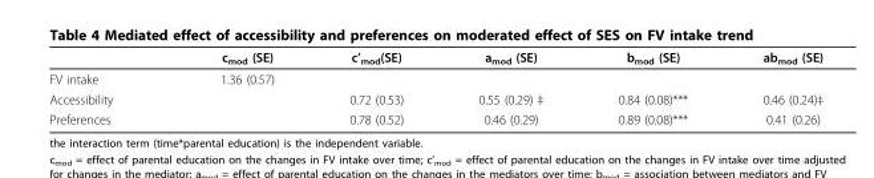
<table><thead><tr><td></td><td>c<sub>mod</sub> (SE)</td><td>c’<sub>mod</sub>(SE)</td><td>a<sub>mod</sub> (SE)</td><td>b<sub>mod</sub> (SE)</td><td>ab<sub>mod</sub> (SE)</td></tr></thead><tbody><tr><td>FV intake</td><td>1.36 (0.57)</td><td></td><td></td><td></td><td></td></tr><tr><td>Accessibility</td><td></td><td>0.72 (0.53)</td><td>0.55 (0.29) ‡</td><td>0.84 (0.08)***</td><td>0.46 (0.24)‡</td></tr><tr><td>Preferences</td><td></td><td>0.78 (0.52)</td><td>0.46 (0.29)</td><td>0.89 (0.08)***</td><td>0.41 (0.26)</td></tr></tbody></table>